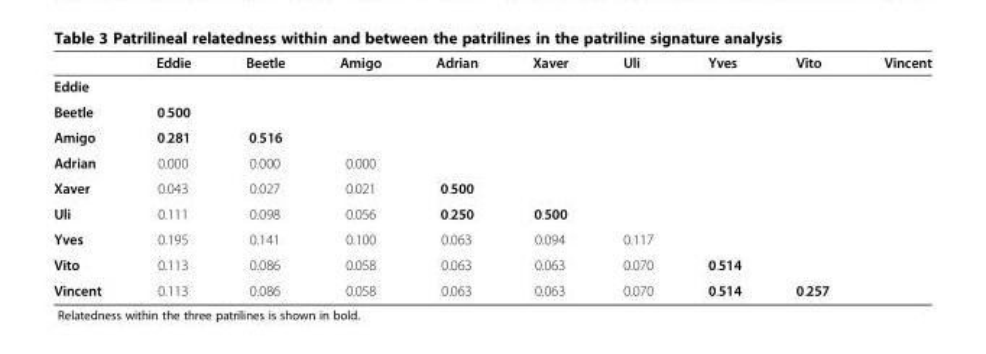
<table><thead><tr><td></td><td>Eddie</td><td>Beetle</td><td>Amigo</td><td>Adrian</td><td>Xaver</td><td>Uli</td><td>Yves</td><td>Vito</td><td>Vincent</td></tr></thead><tbody><tr><td colspan="10">Eddie</td></tr><tr><td>Beetle</td><td>0.500</td><td></td><td></td><td></td><td></td><td></td><td></td><td></td><td></td></tr><tr><td>Amigo</td><td>0.281</td><td>0.516</td><td></td><td></td><td></td><td></td><td></td><td></td><td></td></tr><tr><td>Adrian</td><td>0.000</td><td>0.000</td><td>0.000</td><td></td><td></td><td></td><td></td><td></td><td></td></tr><tr><td>Xaver</td><td>0.043</td><td>0.027</td><td>0.021</td><td>0.500</td><td></td><td></td><td></td><td></td><td></td></tr><tr><td>Uli</td><td>0.111</td><td>0.098</td><td>0.056</td><td>0.250</td><td>0.500</td><td></td><td></td><td></td><td></td></tr><tr><td>Yves</td><td>0.195</td><td>0.141</td><td>0.100</td><td>0.063</td><td>0.094</td><td>0.117</td><td></td><td></td><td></td></tr><tr><td>Vito</td><td>0.113</td><td>0.086</td><td>0.058</td><td>0.063</td><td>0.063</td><td>0.070</td><td>0.514</td><td></td><td></td></tr><tr><td>Vincent</td><td>0.113</td><td>0.086</td><td>0.058</td><td>0.063</td><td>0.063</td><td>0.070</td><td>0.514</td><td>0.257</td><td></td></tr></tbody></table>